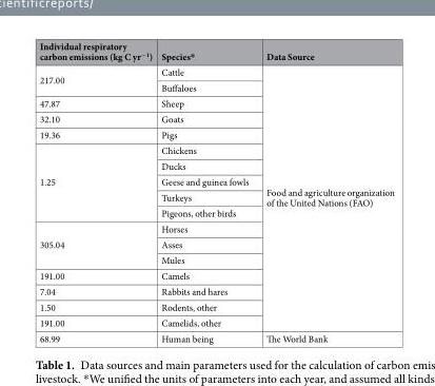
<table><thead><tr><td>Individual respiratory carbon emissions (kg C yr<sup>−1</sup>)</td><td>Species*</td><td>Data Source</td></tr></thead><tbody><tr><td rowspan="2">217.00</td><td>Cattle</td><td rowspan="17">Food and agriculture organization of the United Nations (FAO)</td></tr><tr><td>Buffaloes</td></tr><tr><td>47.87</td><td>Sheep</td></tr><tr><td>32.10</td><td>Goats</td></tr><tr><td>19.36</td><td>Pigs</td></tr><tr><td rowspan="5">1.25</td><td>Chickens</td></tr><tr><td>Ducks</td></tr><tr><td>Geese and guinea fowls</td></tr><tr><td>Turkeys</td></tr><tr><td>Pigeons, other birds</td></tr><tr><td rowspan="3">305.04</td><td>Horses</td></tr><tr><td>Asses</td></tr><tr><td>Mules</td></tr><tr><td>191.00</td><td>Camels</td></tr><tr><td>7.04</td><td>Rabbits and hares</td></tr><tr><td>1.50</td><td>Rodents, other</td></tr><tr><td>191.00</td><td>Camelids, other</td></tr><tr><td>68.99</td><td>Human being</td><td>The World Bank</td></tr></tbody></table>